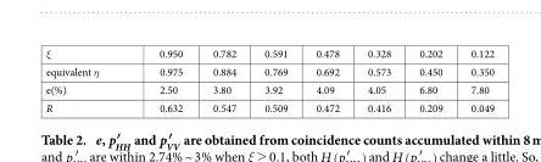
<table><tbody><tr><td>ξ</td><td>0.950</td><td>0.782</td><td>0.591</td><td>0.478</td><td>0.328</td><td>0.202</td><td>0.122</td></tr><tr><td>equivalent η</td><td>0.975</td><td>0.884</td><td>0.769</td><td>0.692</td><td>0.573</td><td>0.450</td><td>0.350</td></tr><tr><td>e(%)</td><td>2.50</td><td>3.80</td><td>3.92</td><td>4.09</td><td>4.05</td><td>6.80</td><td>7.80</td></tr><tr><td>R</td><td>0.632</td><td>0.547</td><td>0.509</td><td>0.472</td><td>0.416</td><td>0.209</td><td>0.049</td></tr></tbody></table>